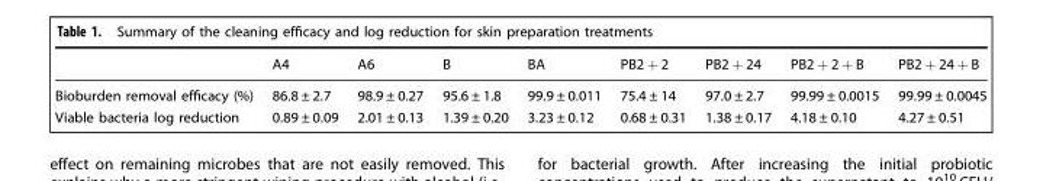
<table><thead><tr><td></td><td>A4</td><td>A6</td><td>B</td><td>BA</td><td>PB2 + 2</td><td>PB2 + 24</td><td>PB2 + 2 + B</td><td>PB2 + 24 + B</td></tr></thead><tbody><tr><td>Bioburden removal efficacy (%)</td><td>86.8 ± 2.7</td><td>98.9 ± 0.27</td><td>95.6 ± 1.8</td><td>99.9 ± 0.011</td><td>75.4 ± 14</td><td>97.0 ± 2.7</td><td>99.99 ± 0.0015</td><td>99.99 ± 0.0045</td></tr><tr><td>Viable bacteria log reduction</td><td>0.89 ± 0.09</td><td>2.01 ± 0.13</td><td>1.39 ± 0.20</td><td>3.23 ± 0.12</td><td>0.68 ± 0.31</td><td>1.38 ± 0.17</td><td>4.18 ± 0.10</td><td>4.27 ± 0.51</td></tr></tbody></table>